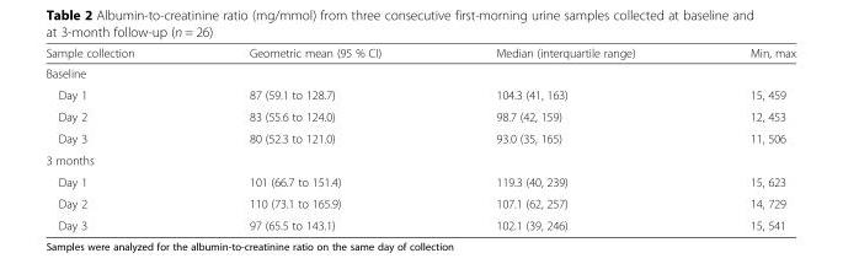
<table><thead><tr><td>Sample collection</td><td>Geometric mean (95 % CI)</td><td>Median (interquartile range)</td><td>Min, max</td></tr></thead><tbody><tr><td colspan="4">Baseline</td></tr><tr><td>Day 1</td><td>87 (59.1 to 128.7)</td><td>104.3 (41, 163)</td><td>15, 459</td></tr><tr><td>Day 2</td><td>83 (55.6 to 124.0)</td><td>98.7 (42, 159)</td><td>12, 453</td></tr><tr><td>Day 3</td><td>80 (52.3 to 121.0)</td><td>93.0 (35, 165)</td><td>11, 506</td></tr><tr><td colspan="4">3 months</td></tr><tr><td>Day 1</td><td>101 (66.7 to 151.4)</td><td>119.3 (40, 239)</td><td>15, 623</td></tr><tr><td>Day 2</td><td>110 (73.1 to 165.9)</td><td>107.1 (62, 257)</td><td>14, 729</td></tr><tr><td>Day 3</td><td>97 (65.5 to 143.1)</td><td>102.1 (39, 246)</td><td>15, 541</td></tr></tbody></table>